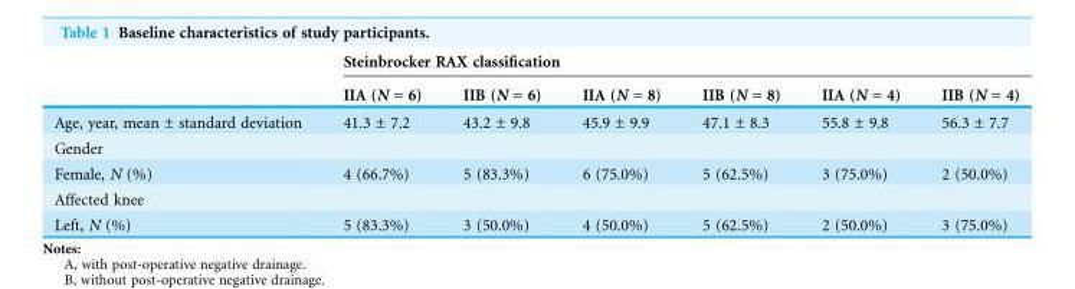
<table><thead><tr><td rowspan="2"></td><td colspan="6">Steinbrocker RAX classification</td></tr><tr><td>IIA (N = 6)</td><td>IIB (N = 6)</td><td>IIA (N = 8)</td><td>IIB (N = 8)</td><td>IIA (N = 4)</td><td>IIB (N = 4)</td></tr></thead><tbody><tr><td>Age, year, mean ± standard deviation</td><td>41.3 ± 7.2</td><td>43.2 ± 9.8</td><td>45.9 ± 9.9</td><td>47.1 ± 8.3</td><td>55.8 ± 9.8</td><td>56.3 ± 7.7</td></tr><tr><td colspan="7">Gender</td></tr><tr><td>Female, N (%)</td><td>4 (66.7%)</td><td>5 (83.3%)</td><td>6 (75.0%)</td><td>5 (62.5%)</td><td>3 (75.0%)</td><td>2 (50.0%)</td></tr><tr><td colspan="7">Affected knee</td></tr><tr><td>Left, N (%)</td><td>5 (83.3%)</td><td>3 (50.0%)</td><td>4 (50.0%)</td><td>5 (62.5%)</td><td>2 (50.0%)</td><td>3 (75.0%)</td></tr></tbody></table>